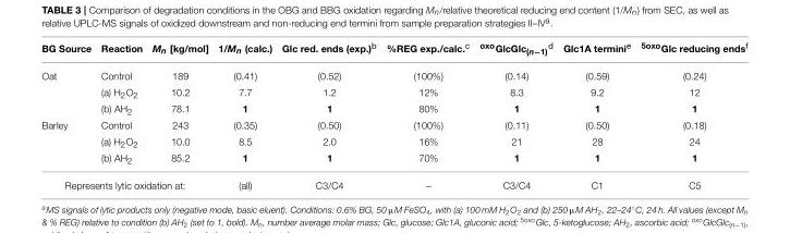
<table><thead><tr><td>BG Source</td><td>Reaction</td><td>Mn [kg/mol]</td><td>1/Mn (calc.)</td><td>Glc red. ends (exp.)<sup>b</sup></td><td>%REG exp./calc.<sup>c</sup></td><td><sup>oxo</sup>GlcGlc(n−1)<sup>d</sup></td><td>Glc1A termini<sup>e</sup></td><td><sup>5oxo</sup>Glc reducing ends<sup>f</sup></td></tr></thead><tbody><tr><td rowspan="3">Oat</td><td>Control</td><td>189</td><td>(0.41)</td><td>(0.52)</td><td>(100%)</td><td>(0.14)</td><td>(0.59)</td><td>(0.24)</td></tr><tr><td>(a) H<sub>2</sub>O<sub>2</sub></td><td>10.2</td><td>7.7</td><td>1.2</td><td>12%</td><td>8.3</td><td>9.2</td><td>12</td></tr><tr><td>(b) AH<sub>2</sub></td><td>78.1</td><td>1</td><td>1</td><td>80%</td><td>1</td><td>1</td><td>1</td></tr><tr><td rowspan="3">Barley</td><td>Control</td><td>243</td><td>(0.35)</td><td>(0.50)</td><td>(100%)</td><td>(0.11)</td><td>(0.50)</td><td>(0.18)</td></tr><tr><td>(a) H<sub>2</sub>O<sub>2</sub></td><td>10.0</td><td>8.5</td><td>2.0</td><td>16%</td><td>21</td><td>28</td><td>24</td></tr><tr><td>(b) AH<sub>2</sub></td><td>85.2</td><td>1</td><td>1</td><td>70%</td><td>1</td><td>1</td><td>1</td></tr><tr><td colspan="3">Represents lytic oxidation at:</td><td>(all)</td><td>C3/C4</td><td>–</td><td>C3/C4</td><td>C1</td><td>C5</td></tr></tbody></table>